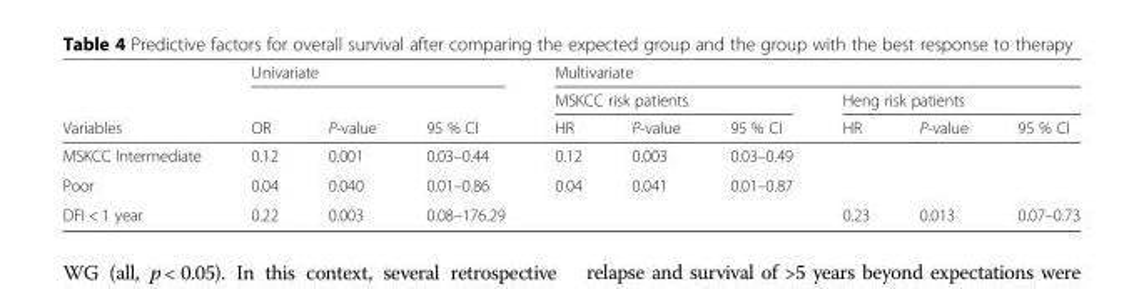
<table><thead><tr><td rowspan="3">Variables</td><td colspan="3">Univariate</td><td colspan="6">Multivariate</td></tr><tr><td rowspan="2">OR</td><td rowspan="2">P-value</td><td rowspan="2">95 % CI</td><td colspan="3">MSKCC risk patients</td><td colspan="3">Heng risk patients</td></tr><tr><td>HR</td><td>P-value</td><td>95 % CI</td><td>HR</td><td>P-value</td><td>95 % CI</td></tr></thead><tbody><tr><td>MSKCC Intermediate</td><td>0.12</td><td>0.001</td><td>0.03–0.44</td><td>0.12</td><td>0.003</td><td>0.03–0.49</td><td></td><td></td><td></td></tr><tr><td>Poor</td><td>0.04</td><td>0.040</td><td>0.01–0.86</td><td>0.04</td><td>0.041</td><td>0.01–0.87</td><td></td><td></td><td></td></tr><tr><td>DFI &lt; 1 year</td><td>0.22</td><td>0.003</td><td>0.08–176.29</td><td></td><td></td><td></td><td>0.23</td><td>0.013</td><td>0.07–0.73</td></tr></tbody></table>